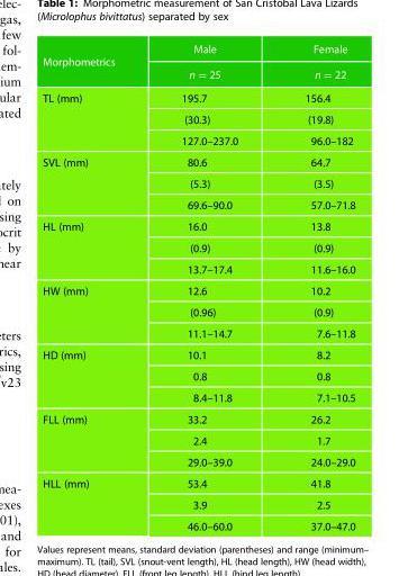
<table><thead><tr><td rowspan="2">Morphometrics</td><td rowspan="2">Male n = 25</td><td rowspan="2">Female n = 22</td></tr><tr></tr></thead><tbody><tr><td rowspan="3">TL (mm)</td><td>195.7</td><td>156.4</td></tr><tr><td>(30.3)</td><td>(19.8)</td></tr><tr><td>127.0–237.0</td><td>96.0–182</td></tr><tr><td rowspan="3">SVL (mm)</td><td>80.6</td><td>64.7</td></tr><tr><td>(5.3)</td><td>(3.5)</td></tr><tr><td>69.6–90.0</td><td>57.0–71.8</td></tr><tr><td rowspan="3">HL (mm)</td><td>16.0</td><td>13.8</td></tr><tr><td>(0.9)</td><td>(0.9)</td></tr><tr><td>13.7–17.4</td><td>11.6–16.0</td></tr><tr><td rowspan="3">HW (mm)</td><td>12.6</td><td>10.2</td></tr><tr><td>(0.96)</td><td>(0.9)</td></tr><tr><td>11.1–14.7</td><td>7.6–11.8</td></tr><tr><td rowspan="3">HD (mm)</td><td>10.1</td><td>8.2</td></tr><tr><td>0.8</td><td>0.8</td></tr><tr><td>8.4–11.8</td><td>7.1–10.5</td></tr><tr><td rowspan="3">FLL (mm)</td><td>33.2</td><td>26.2</td></tr><tr><td>2.4</td><td>1.7</td></tr><tr><td>29.0–39.0</td><td>24.0–29.0</td></tr><tr><td rowspan="3">HLL (mm)</td><td>53.4</td><td>41.8</td></tr><tr><td>3.9</td><td>2.5</td></tr><tr><td>46.0–60.0</td><td>37.0–47.0</td></tr></tbody></table>